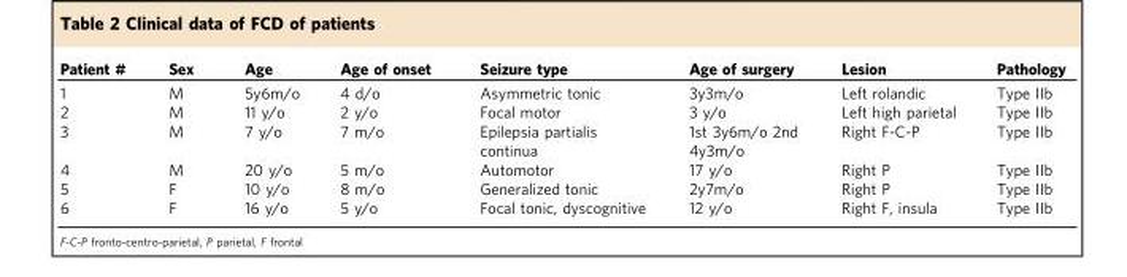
<table><thead><tr><td>Patient #</td><td>Sex</td><td>Age</td><td>Age of onset</td><td>Seizure type</td><td>Age of surgery</td><td>Lesion</td><td>Pathology</td></tr></thead><tbody><tr><td>1</td><td>M</td><td>5y6m/o</td><td>4 d/o</td><td>Asymmetric tonic</td><td>3y3m/o</td><td>Left rolandic</td><td>Type IIb</td></tr><tr><td>2</td><td>M</td><td>11 y/o</td><td>2 y/o</td><td>Focal motor</td><td>3 y/o</td><td>Left high parietal</td><td>Type IIb</td></tr><tr><td>3</td><td>M</td><td>7 y/o</td><td>7 m/o</td><td>Epilepsia partialis continua</td><td>1st 3y6m/o 2nd 4y3m/o</td><td>Right F-C-P</td><td>Type IIb</td></tr><tr><td>4</td><td>M</td><td>20 y/o</td><td>5 m/o</td><td>Automotor</td><td>17 y/o</td><td>Right P</td><td>Type IIb</td></tr><tr><td>5</td><td>F</td><td>10 y/o</td><td>8 m/o</td><td>Generalized tonic</td><td>2y7m/o</td><td>Right P</td><td>Type IIb</td></tr><tr><td>6</td><td>F</td><td>16 y/o</td><td>5 y/o</td><td>Focal tonic, dyscognitive</td><td>12 y/o</td><td>Right F, insula</td><td>Type IIb</td></tr></tbody></table>